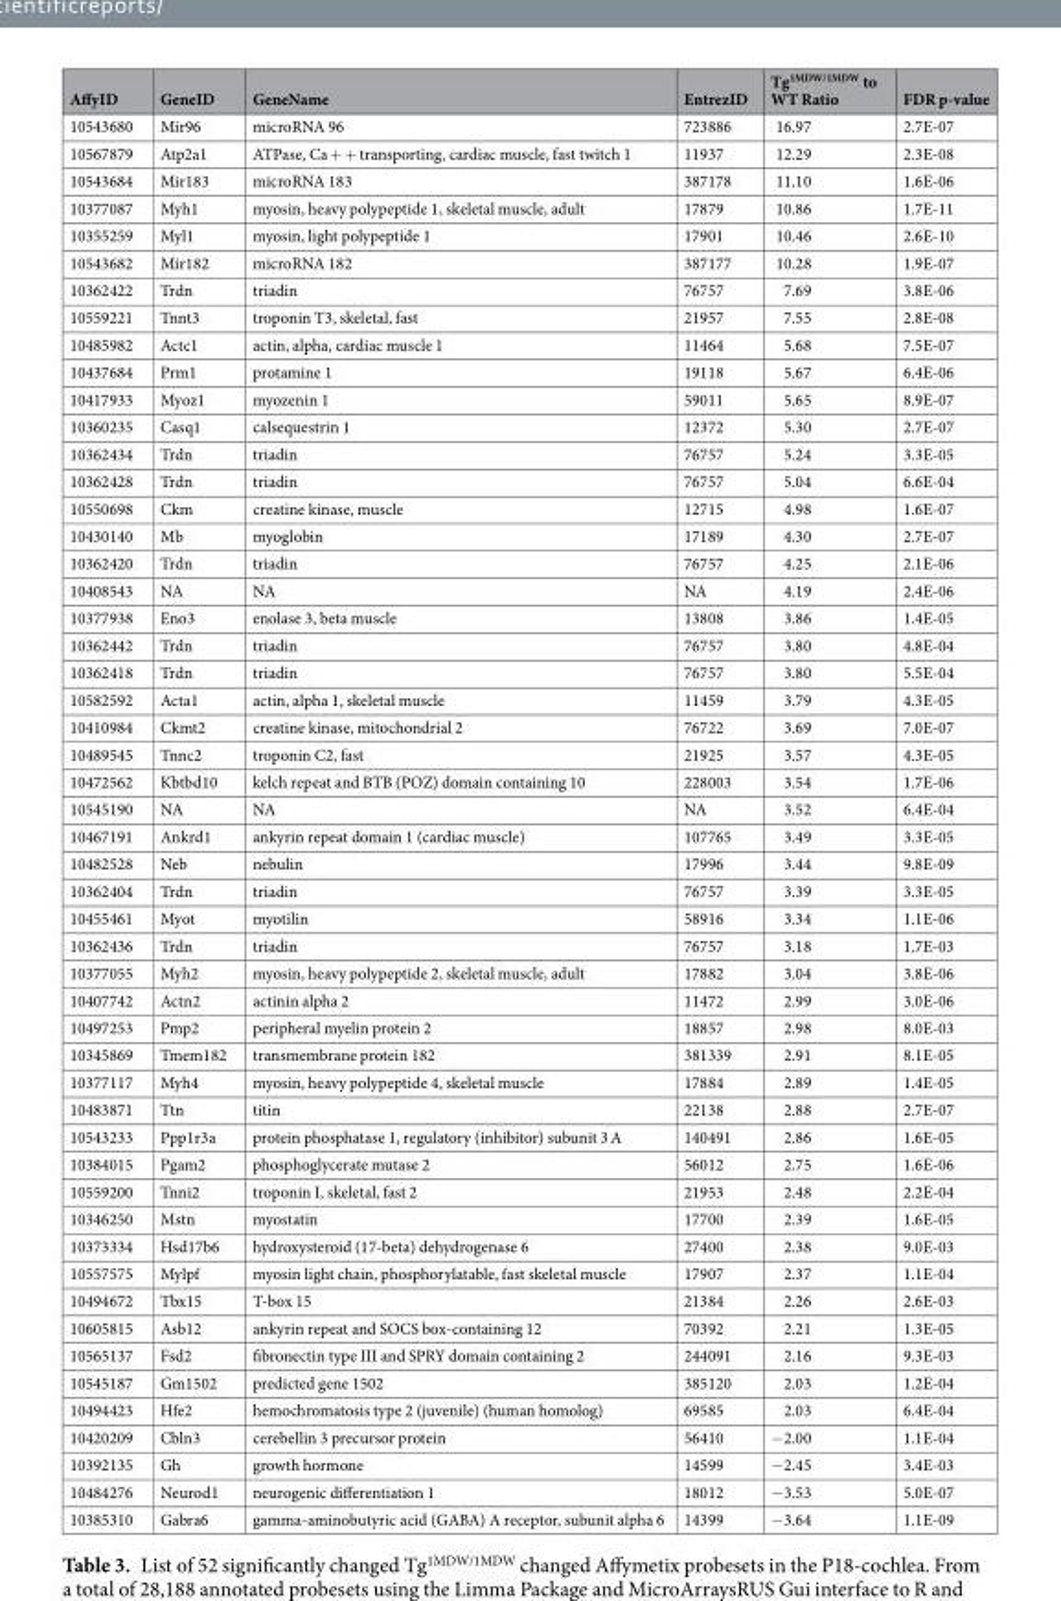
<table><thead><tr><td>AffyID</td><td>GeneID</td><td>GeneName</td><td>EntrezID</td><td>Tg<sup>1MDW/1MDW</sup> to WT Ratio</td><td>FDR p-value</td></tr></thead><tbody><tr><td>10543680</td><td>Mir96</td><td>microRNA 96</td><td>723886</td><td>16.97</td><td>2.7E-07</td></tr><tr><td>10567879</td><td>Atp2a1</td><td>ATPase, Ca + + transporting, cardiac muscle, fast twitch 1</td><td>11937</td><td>12.29</td><td>2.3E-08</td></tr><tr><td>10543684</td><td>Mir183</td><td>microRNA 183</td><td>387178</td><td>11.10</td><td>1.6E-06</td></tr><tr><td>10377087</td><td>Myh1</td><td>myosin, heavy polypeptide 1, skeletal muscle, adult</td><td>17879</td><td>10.86</td><td>1.7E-11</td></tr><tr><td>10355259</td><td>Myl1</td><td>myosin, light polypeptide 1</td><td>17901</td><td>10.46</td><td>2.6E-10</td></tr><tr><td>10543682</td><td>Mir182</td><td>microRNA 182</td><td>387177</td><td>10.28</td><td>1.9E-07</td></tr><tr><td>10362422</td><td>Trdn</td><td>triadin</td><td>76757</td><td>7.69</td><td>3.8E-06</td></tr><tr><td>10559221</td><td>Tnnt3</td><td>troponin T3, skeletal, fast</td><td>21957</td><td>7.55</td><td>2.8E-08</td></tr><tr><td>10485982</td><td>Actc1</td><td>actin, alpha, cardiac muscle 1</td><td>11464</td><td>5.68</td><td>7.5E-07</td></tr><tr><td>10437684</td><td>Prm1</td><td>protamine 1</td><td>19118</td><td>5.67</td><td>6.4E-06</td></tr><tr><td>10417933</td><td>Myoz1</td><td>myozenin 1</td><td>59011</td><td>5.65</td><td>8.9E-07</td></tr><tr><td>10360235</td><td>Casq1</td><td>calsequestrin 1</td><td>12372</td><td>5.30</td><td>2.7E-07</td></tr><tr><td>10362434</td><td>Trdn</td><td>triadin</td><td>76757</td><td>5.24</td><td>3.3E-05</td></tr><tr><td>10362428</td><td>Trdn</td><td>triadin</td><td>76757</td><td>5.04</td><td>6.6E-04</td></tr><tr><td>10550698</td><td>Ckm</td><td>creatine kinase, muscle</td><td>12715</td><td>4.98</td><td>1.6E-07</td></tr><tr><td>10430140</td><td>Mb</td><td>myoglobin</td><td>17189</td><td>4.30</td><td>2.7E-07</td></tr><tr><td>10362420</td><td>Trdn</td><td>triadin</td><td>76757</td><td>4.25</td><td>2.1E-06</td></tr><tr><td>10408543</td><td>NA</td><td>NA</td><td>NA</td><td>4.19</td><td>2.4E-06</td></tr><tr><td>10377938</td><td>Eno3</td><td>enolase 3, beta muscle</td><td>13808</td><td>3.86</td><td>1.4E-05</td></tr><tr><td>10362442</td><td>Trdn</td><td>triadin</td><td>76757</td><td>3.80</td><td>4.8E-04</td></tr><tr><td>10362418</td><td>Trdn</td><td>triadin</td><td>76757</td><td>3.80</td><td>5.5E-04</td></tr><tr><td>10582592</td><td>Acta1</td><td>actin, alpha 1, skeletal muscle</td><td>11459</td><td>3.79</td><td>4.3E-05</td></tr><tr><td>10410984</td><td>Ckmt2</td><td>creatine kinase, mitochondrial 2</td><td>76722</td><td>3.69</td><td>7.0E-07</td></tr><tr><td>10489545</td><td>Tnnc2</td><td>troponin C2, fast</td><td>21925</td><td>3.57</td><td>4.3E-05</td></tr><tr><td>10472562</td><td>Kbtbd10</td><td>kelch repeat and BTB (POZ) domain containing 10</td><td>228003</td><td>3.54</td><td>1.7E-06</td></tr><tr><td>10545190</td><td>NA</td><td>NA</td><td>NA</td><td>3.52</td><td>6.4E-04</td></tr><tr><td>10467191</td><td>Ankrd1</td><td>ankyrin repeat domain 1 (cardiac muscle)</td><td>107765</td><td>3.49</td><td>3.3E-05</td></tr><tr><td>10482528</td><td>Neb</td><td>nebulin</td><td>17996</td><td>3.44</td><td>9.8E-09</td></tr><tr><td>10362404</td><td>Trdn</td><td>triadin</td><td>76757</td><td>3.39</td><td>3.3E-05</td></tr><tr><td>10455461</td><td>Myot</td><td>myotilin</td><td>58916</td><td>3.34</td><td>1.1E-06</td></tr><tr><td>10362436</td><td>Trdn</td><td>triadin</td><td>76757</td><td>3.18</td><td>1.7E-03</td></tr><tr><td>10377055</td><td>Myh2</td><td>myosin, heavy polypeptide 2, skeletal muscle, adult</td><td>17882</td><td>3.04</td><td>3.8E-06</td></tr><tr><td>10407742</td><td>Actn2</td><td>actinin alpha 2</td><td>11472</td><td>2.99</td><td>3.0E-06</td></tr><tr><td>10497253</td><td>Pmp2</td><td>peripheral myelin protein 2</td><td>18857</td><td>2.98</td><td>8.0E-03</td></tr><tr><td>10345869</td><td>Tmem182</td><td>transmembrane protein 182</td><td>381339</td><td>2.91</td><td>8.1E-05</td></tr><tr><td>10377117</td><td>Myh4</td><td>myosin, heavy polypeptide 4, skeletal muscle</td><td>17884</td><td>2.89</td><td>1.4E-05</td></tr><tr><td>10483871</td><td>Ttn</td><td>titin</td><td>22138</td><td>2.88</td><td>2.7E-07</td></tr><tr><td>10543233</td><td>Ppp1r3a</td><td>protein phosphatase 1, regulatory (inhibitor) subunit 3 A</td><td>140491</td><td>2.86</td><td>1.6E-05</td></tr><tr><td>10384015</td><td>Pgam2</td><td>phosphoglycerate mutase 2</td><td>56012</td><td>2.75</td><td>1.6E-06</td></tr><tr><td>10559200</td><td>Tnni2</td><td>troponin I, skeletal, fast 2</td><td>21953</td><td>2.48</td><td>2.2E-04</td></tr><tr><td>10346250</td><td>Mstn</td><td>myostatin</td><td>17700</td><td>2.39</td><td>1.6E-05</td></tr><tr><td>10373334</td><td>Hsd17b6</td><td>hydroxysteroid (17-beta) dehydrogenase 6</td><td>27400</td><td>2.38</td><td>9.0E-03</td></tr><tr><td>10557575</td><td>Mylpf</td><td>myosin light chain, phosphorylatable, fast skeletal muscle</td><td>17907</td><td>2.37</td><td>1.1E-04</td></tr><tr><td>10494672</td><td>Tbx15</td><td>T-box 15</td><td>21384</td><td>2.26</td><td>2.6E-03</td></tr><tr><td>10605815</td><td>Asb12</td><td>ankyrin repeat and SOCS box-containing 12</td><td>70392</td><td>2.21</td><td>1.3E-05</td></tr><tr><td>10565137</td><td>Fsd2</td><td>fibronectin type III and SPRY domain containing 2</td><td>244091</td><td>2.16</td><td>9.3E-03</td></tr><tr><td>10545187</td><td>Gm1502</td><td>predicted gene 1502</td><td>385120</td><td>2.03</td><td>1.2E-04</td></tr><tr><td>10494423</td><td>Hfe2</td><td>hemochromatosis type 2 (juvenile) (human homolog)</td><td>69585</td><td>2.03</td><td>6.4E-04</td></tr><tr><td>10420209</td><td>Cbln3</td><td>cerebellin 3 precursor protein</td><td>56410</td><td>−2.00</td><td>1.1E-04</td></tr><tr><td>10392135</td><td>Gh</td><td>growth hormone</td><td>14599</td><td>−2.45</td><td>3.4E-03</td></tr><tr><td>10484276</td><td>Neurod1</td><td>neurogenic differentiation 1</td><td>18012</td><td>−3.53</td><td>5.0E-07</td></tr><tr><td>10385310</td><td>Gabra6</td><td>gamma-aminobutyric acid (GABA) A receptor, subunit alpha 6</td><td>14399</td><td>−3.64</td><td>1.1E-09</td></tr></tbody></table>